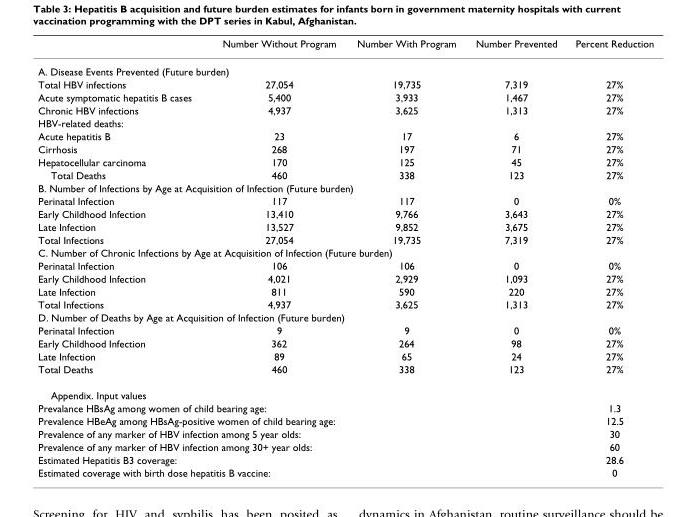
<table><thead><tr><td></td><td>Number Without Program</td><td>Number With Program</td><td>Number Prevented</td><td>Percent Reduction</td></tr></thead><tbody><tr><td colspan="5">A. Disease Events Prevented (Future burden)</td></tr><tr><td>Total HBV infections</td><td>27,054</td><td>19,735</td><td>7,319</td><td>27%</td></tr><tr><td>Acute symptomatic hepatitis B cases</td><td>5,400</td><td>3,933</td><td>1,467</td><td>27%</td></tr><tr><td>Chronic HBV infections</td><td>4,937</td><td>3,625</td><td>1,313</td><td>27%</td></tr><tr><td colspan="5">HBV-related deaths:</td></tr><tr><td>Acute hepatitis B</td><td>23</td><td>17</td><td>6</td><td>27%</td></tr><tr><td>Cirrhosis</td><td>268</td><td>197</td><td>71</td><td>27%</td></tr><tr><td>Hepatocellular carcinoma</td><td>170</td><td>125</td><td>45</td><td>27%</td></tr><tr><td>Total Deaths</td><td>460</td><td>338</td><td>123</td><td>27%</td></tr><tr><td colspan="5">B. Number of Infections by Age at Acquisition of Infection (Future burden)</td></tr><tr><td>Perinatal Infection</td><td>117</td><td>117</td><td>0</td><td>0%</td></tr><tr><td>Early Childhood Infection</td><td>13,410</td><td>9,766</td><td>3,643</td><td>27%</td></tr><tr><td>Late Infection</td><td>13,527</td><td>9,852</td><td>3,675</td><td>27%</td></tr><tr><td>Total Infections</td><td>27,054</td><td>19,735</td><td>7,319</td><td>27%</td></tr><tr><td colspan="5">C. Number of Chronic Infections by Age at Acquisition of Infection (Future burden)</td></tr><tr><td>Perinatal Infection</td><td>106</td><td>106</td><td>0</td><td>0%</td></tr><tr><td>Early Childhood Infection</td><td>4,021</td><td>2,929</td><td>1,093</td><td>27%</td></tr><tr><td>Late Infection</td><td>811</td><td>590</td><td>220</td><td>27%</td></tr><tr><td>Total Infections</td><td>4,937</td><td>3,625</td><td>1,313</td><td>27%</td></tr><tr><td colspan="5">D. Number of Deaths by Age at Acquisition of Infection (Future burden)</td></tr><tr><td>Perinatal Infection</td><td>9</td><td>9</td><td>0</td><td>0%</td></tr><tr><td>Early Childhood Infection</td><td>362</td><td>264</td><td>98</td><td>27%</td></tr><tr><td>Late Infection</td><td>89</td><td>65</td><td>24</td><td>27%</td></tr><tr><td>Total Deaths</td><td>460</td><td>338</td><td>123</td><td>27%</td></tr><tr><td colspan="5">Appendix. Input values</td></tr><tr><td colspan="4">Prevalance HBsAg among women of child bearing age:</td><td>1.3</td></tr><tr><td colspan="4">Prevalence HBeAg among HBsAg-positive women of child bearing age:</td><td>12.5</td></tr><tr><td colspan="4">Prevalence of any marker of HBV infection among 5 year olds:</td><td>30</td></tr><tr><td colspan="4">Prevalence of any marker of HBV infection among 30+ year olds:</td><td>60</td></tr><tr><td colspan="4">Estimated Hepatitis B3 coverage:</td><td>28.6</td></tr><tr><td colspan="4">Estimated coverage with birth dose hepatitis B vaccine:</td><td>0</td></tr></tbody></table>